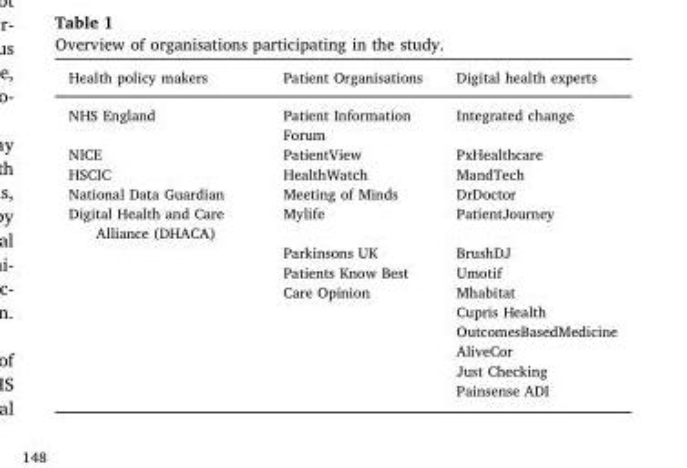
<table><thead><tr><td>Health policy makers</td><td>Patient Organisations</td><td>Digital health experts</td></tr></thead><tbody><tr><td>NHS England</td><td>Patient Information Forum</td><td>Integrated change</td></tr><tr><td>NICE</td><td>PatientView</td><td>PxHealthcare</td></tr><tr><td>HSCIC</td><td>HealthWatch</td><td>MandTech</td></tr><tr><td>National Data Guardian</td><td>Meeting of Minds</td><td>DrDoctor</td></tr><tr><td rowspan="9">Digital Health and Care Alliance (DHACA)</td><td>Mylife</td><td>PatientJourney</td></tr><tr><td>Parkinsons UK</td><td>BrushDJ</td></tr><tr><td>Patients Know Best</td><td>Umotif</td></tr><tr><td>Care Opinion</td><td>Mhabitat</td></tr><tr><td></td><td>Cupris Health</td></tr><tr><td></td><td>OutcomesBasedMedicine</td></tr><tr><td></td><td>AliveCor</td></tr><tr><td></td><td>Just Checking</td></tr><tr><td></td><td>Painsense ADI</td></tr></tbody></table>